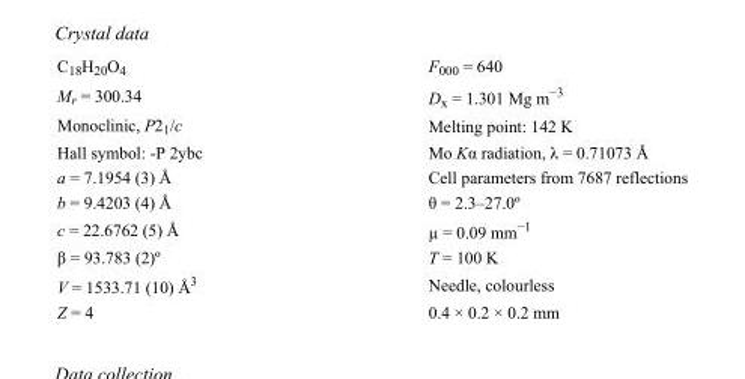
<table><tbody><tr><td>C<sub>18</sub>H<sub>20</sub>O<sub>4</sub></td><td>F000 = 640</td></tr><tr><td>M<sub>r</sub> = 300.34</td><td>D<sub>x</sub> = 1.301 Mg m<sup>−3</sup></td></tr><tr><td>Monoclinic, P2<sub>1</sub>/c</td><td>Melting point: 142 K</td></tr><tr><td>Hall symbol: -P 2ybc</td><td>Mo Kα radiation, λ = 0.71073 Å</td></tr><tr><td>a = 7.1954 (3) Å</td><td>Cell parameters from 7687 reflections</td></tr><tr><td>b = 9.4203 (4) Å</td><td>θ = 2.3–27.0º</td></tr><tr><td>c = 22.6762 (5) Å</td><td>µ = 0.09 mm<sup>−1</sup></td></tr><tr><td>β = 93.783 (2)º</td><td>T = 100 K</td></tr><tr><td>V = 1533.71 (10) Å<sup>3</sup></td><td>Needle, colourless</td></tr><tr><td>Z = 4</td><td>0.4 × 0.2 × 0.2 mm</td></tr></tbody></table>